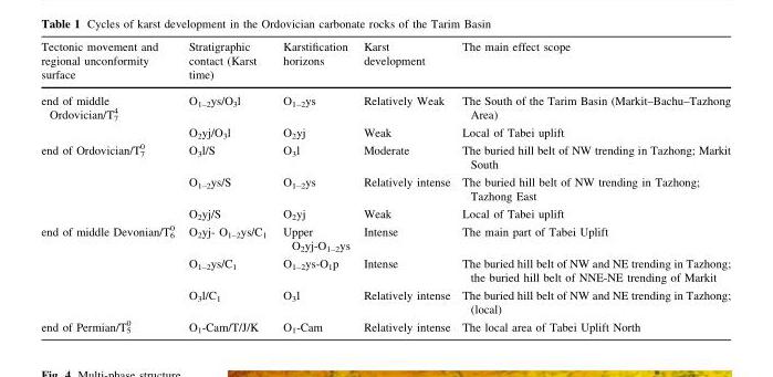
<table><thead><tr><td>Tectonic movement and regional unconformity surface</td><td>Stratigraphic contact (Karst time)</td><td>Karstification horizons</td><td>Karst development</td><td>The main effect scope</td></tr></thead><tbody><tr><td rowspan="2">end of middle Ordovician/T<sub>7</sub> <sup>4</sup></td><td>O<sub>1–2</sub>ys/O<sub>3</sub>l</td><td>O<sub>1–2</sub>ys</td><td>Relatively Weak</td><td>The South of the Tarim Basin (Markit–Bachu–Tazhong Area)</td></tr><tr><td>O<sub>2</sub>yj/O<sub>3</sub>l</td><td>O<sub>2</sub>yj</td><td>Weak</td><td>Local of Tabei uplift</td></tr><tr><td rowspan="3">end of Ordovician/T<sub>7</sub> <sup>0</sup></td><td>O<sub>3</sub>l/S</td><td>O<sub>3</sub>l</td><td>Moderate</td><td>The buried hill belt of NW trending in Tazhong; Markit South</td></tr><tr><td>O<sub>1–2</sub>ys/S</td><td>O<sub>1–2</sub>ys</td><td>Relatively intense</td><td>The buried hill belt of NW trending in Tazhong; Tazhong East</td></tr><tr><td>O<sub>2</sub>yj/S</td><td>O<sub>2</sub>yj</td><td>Weak</td><td>Local of Tabei uplift</td></tr><tr><td rowspan="3">end of middle Devonian/T<sub>6</sub> <sup>0</sup></td><td>O<sub>2</sub>yj- O<sub>1–2</sub>ys/C<sub>1</sub></td><td>Upper O<sub>2</sub>yj-O<sub>1–2</sub>ys</td><td>Intense</td><td>The main part of Tabei Uplift</td></tr><tr><td>O<sub>1–2</sub>ys/C<sub>1</sub></td><td>O<sub>1–2</sub>ys-O<sub>1</sub>p</td><td>Intense</td><td>The buried hill belt of NW and NE trending in Tazhong; the buried hill belt of NNE-NE trending of Markit</td></tr><tr><td>O<sub>3</sub>l/C<sub>1</sub></td><td>O<sub>3</sub>l</td><td>Relatively intense</td><td>The buried hill belt of NW and NE trending in Tazhong; (local)</td></tr><tr><td>end of Permian/T<sub>5</sub> <sup>0</sup></td><td>O<sub>1</sub>-Cam/T/J/K</td><td>O<sub>1</sub>-Cam</td><td>Relatively intense</td><td>The local area of Tabei Uplift North</td></tr></tbody></table>